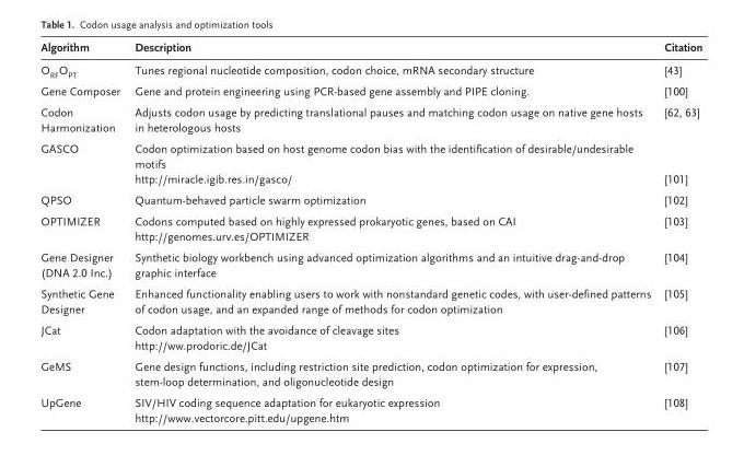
<table><thead><tr><td>Algorithm</td><td>Description</td><td>Citation</td></tr></thead><tbody><tr><td>O<sub>RF</sub>O<sub>PT</sub></td><td>Tunes regional nucleotide composition, codon choice, mRNA secondary structure</td><td>[43]</td></tr><tr><td>Gene Composer</td><td>Gene and protein engineering using PCR-based gene assembly and PIPE cloning.</td><td>[100]</td></tr><tr><td>Codon Harmonization</td><td>Adjusts codon usage by predicting translational pauses and matching codon usage on native gene hosts in heterologous hosts</td><td>[62, 63]</td></tr><tr><td>GASCO</td><td>Codon optimization based on host genome codon bias with the identification of desirable/undesirable motifs http://miracle.igib.res.in/gasco/</td><td>[101]</td></tr><tr><td>QPSO</td><td>Quantum-behaved particle swarm optimization</td><td>[102]</td></tr><tr><td>OPTIMIZER</td><td>Codons computed based on highly expressed prokaryotic genes, based on CAI http://genomes.urv.es/OPTIMIZER</td><td>[103]</td></tr><tr><td>Gene Designer (DNA 2.0 Inc.)</td><td>Synthetic biology workbench using advanced optimization algorithms and an intuitive drag-and-drop graphic interface</td><td>[104]</td></tr><tr><td>Synthetic Gene Designer</td><td>Enhanced functionality enabling users to work with nonstandard genetic codes, with user-defined patterns of codon usage, and an expanded range of methods for codon optimization</td><td>[105]</td></tr><tr><td>JCat</td><td>Codon adaptation with the avoidance of cleavage sites http://ww.prodoric.de/JCat</td><td>[106]</td></tr><tr><td>GeMS</td><td>Gene design functions, including restriction site prediction, codon optimization for expression, stem-loop determination, and oligonucleotide design</td><td>[107]</td></tr><tr><td>UpGene</td><td>SIV/HIV coding sequence adaptation for eukaryotic expression http://www.vectorcore.pitt.edu/upgene.htm</td><td>[108]</td></tr></tbody></table>